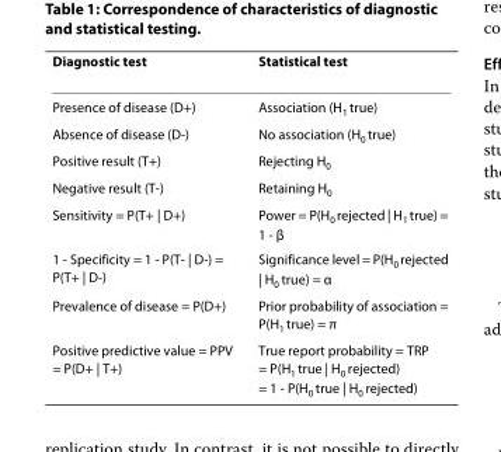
<table><thead><tr><td>Diagnostic test</td><td>Statistical test</td></tr></thead><tbody><tr><td>Presence of disease (D+)</td><td>Association (H<sub>1</sub> true)</td></tr><tr><td>Absence of disease (D-)</td><td>No association (H<sub>0</sub> true)</td></tr><tr><td>Positive result (T+)</td><td>Rejecting H<sub>0</sub></td></tr><tr><td>Negative result (T-)</td><td>Retaining H<sub>0</sub></td></tr><tr><td>Sensitivity = P(T+ | D+)</td><td>Power = P(H<sub>0</sub> rejected | H<sub>1</sub> true) = 1 - β</td></tr><tr><td>1 - Specificity = 1 - P(T- | D-) = P(T+ | D-)</td><td>Significance level = P(H<sub>0</sub> rejected | H<sub>0</sub> true) = α</td></tr><tr><td>Prevalence of disease = P(D+)</td><td>Prior probability of association = P(H<sub>1</sub> true) = π</td></tr><tr><td>Positive predictive value = PPV = P(D+ | T+)</td><td>True report probability = TRP = P(H<sub>1</sub> true | H<sub>0</sub> rejected) = 1 - P(H<sub>0</sub> true | H<sub>0</sub> rejected)</td></tr></tbody></table>